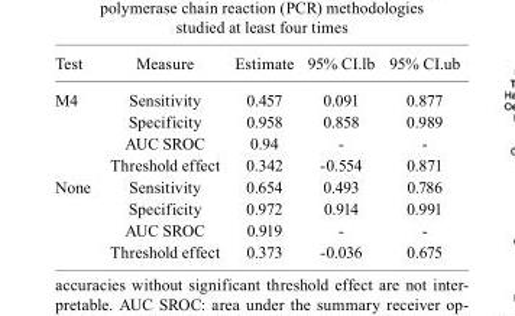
<table><thead><tr><td>Test</td><td>Measure</td><td>Estimate</td><td>95% CI.lb</td><td>95% CI.ub</td></tr></thead><tbody><tr><td rowspan="4">M4</td><td>Sensitivity</td><td>0.457</td><td>0.091</td><td>0.877</td></tr><tr><td>Specificity</td><td>0.958</td><td>0.858</td><td>0.989</td></tr><tr><td>AUC SROC</td><td>0.94</td><td>-</td><td>-</td></tr><tr><td>Threshold effect</td><td>0.342</td><td>-0.554</td><td>0.871</td></tr><tr><td rowspan="4">None</td><td>Sensitivity</td><td>0.654</td><td>0.493</td><td>0.786</td></tr><tr><td>Specificity</td><td>0.972</td><td>0.914</td><td>0.991</td></tr><tr><td>AUC SROC</td><td>0.919</td><td>-</td><td>-</td></tr><tr><td>Threshold effect</td><td>0.373</td><td>-0.036</td><td>0.675</td></tr></tbody></table>